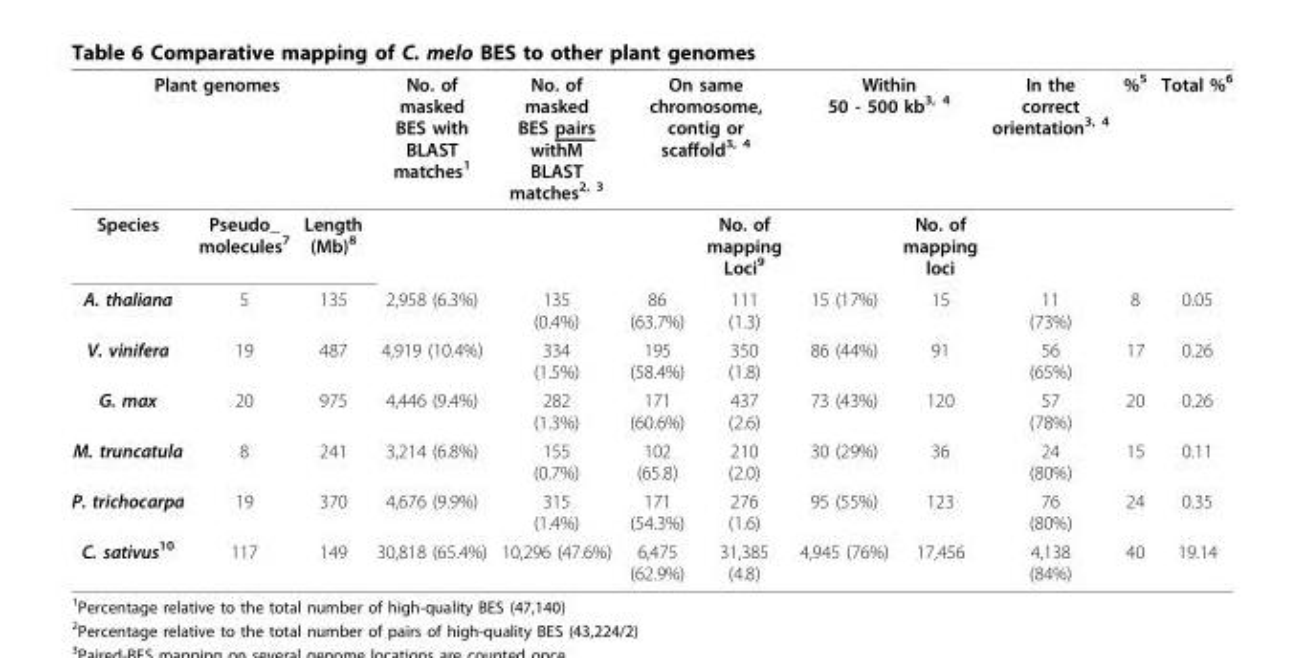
<table><thead><tr><td colspan="3">Plant genomes</td><td rowspan="2">No. of masked BES with BLAST matches<sup>1</sup></td><td rowspan="2">No. of masked BES pairs withM BLAST matches<sup>2, 3</sup></td><td colspan="2">On same chromosome, contig or scaffold<sup>3, 4</sup></td><td colspan="2">Within 50 - 500 kb<sup>3, 4</sup></td><td rowspan="2">In the correct orientation<sup>3, 4</sup></td><td rowspan="2">%<sup>5</sup></td><td rowspan="2">Total %<sup>6</sup></td></tr><tr><td>Species</td><td>Pseudo_ molecules<sup>7</sup></td><td>Length (Mb)<sup>8</sup></td><td></td><td>No. of mapping Loci<sup>9</sup></td><td></td><td>No. of mapping loci</td></tr></thead><tbody><tr><td>A. thaliana</td><td>5</td><td>135</td><td>2,958 (6.3%)</td><td>135 (0.4%)</td><td>86 (63.7%)</td><td>111 (1.3)</td><td>15 (17%)</td><td>15</td><td>11 (73%)</td><td>8</td><td>0.05</td></tr><tr><td>V. vinifera</td><td>19</td><td>487</td><td>4,919 (10.4%)</td><td>334 (1.5%)</td><td>195 (58.4%)</td><td>350 (1.8)</td><td>86 (44%)</td><td>91</td><td>56 (65%)</td><td>17</td><td>0.26</td></tr><tr><td>G. max</td><td>20</td><td>975</td><td>4,446 (9.4%)</td><td>282 (1.3%)</td><td>171 (60.6%)</td><td>437 (2.6)</td><td>73 (43%)</td><td>120</td><td>57 (78%)</td><td>20</td><td>0.26</td></tr><tr><td>M. truncatula</td><td>8</td><td>241</td><td>3,214 (6.8%)</td><td>155 (0.7%)</td><td>102 (65.8)</td><td>210 (2.0)</td><td>30 (29%)</td><td>36</td><td>24 (80%)</td><td>15</td><td>0.11</td></tr><tr><td>P. trichocarpa</td><td>19</td><td>370</td><td>4,676 (9.9%)</td><td>315 (1.4%)</td><td>171 (54.3%)</td><td>276 (1.6)</td><td>95 (55%)</td><td>123</td><td>76 (80%)</td><td>24</td><td>0.35</td></tr><tr><td>C. sativus<sup>10</sup></td><td>117</td><td>149</td><td>30,818 (65.4%)</td><td>10,296 (47.6%)</td><td>6,475 (62.9%)</td><td>31,385 (4.8)</td><td>4,945 (76%)</td><td>17,456</td><td>4,138 (84%)</td><td>40</td><td>19.14</td></tr></tbody></table>